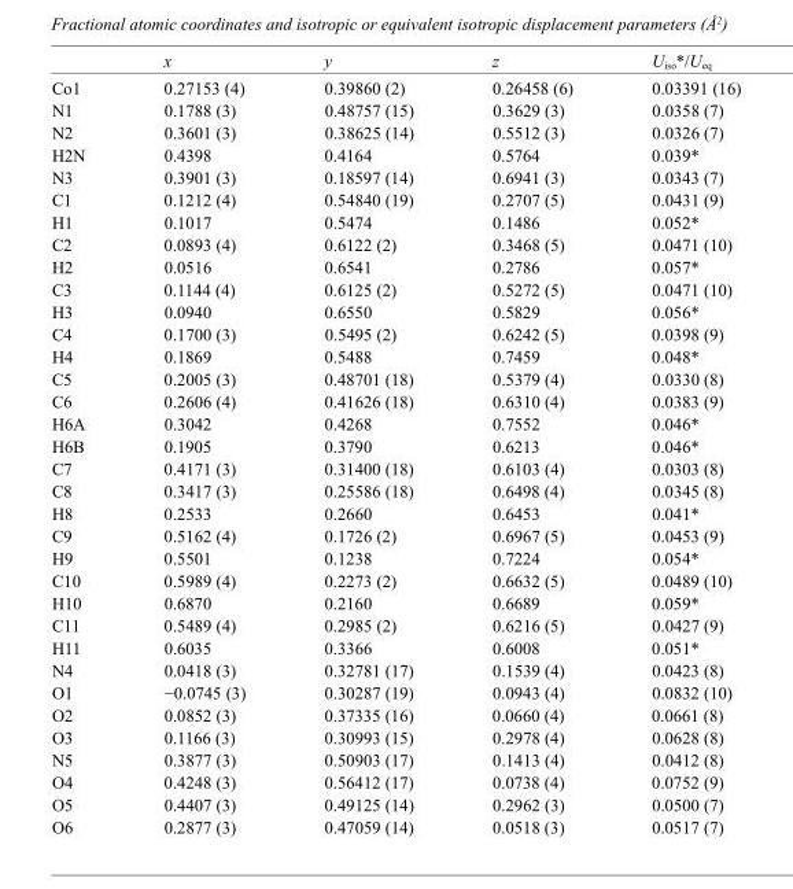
<table><thead><tr><td></td><td>x</td><td>y</td><td>z</td><td>U<sub>iso</sub>*/U<sub>eq</sub></td></tr></thead><tbody><tr><td>Co1</td><td>0.27153 (4)</td><td>0.39860 (2)</td><td>0.26458 (6)</td><td>0.03391 (16)</td></tr><tr><td>N1</td><td>0.1788 (3)</td><td>0.48757 (15)</td><td>0.3629 (3)</td><td>0.0358 (7)</td></tr><tr><td>N2</td><td>0.3601 (3)</td><td>0.38625 (14)</td><td>0.5512 (3)</td><td>0.0326 (7)</td></tr><tr><td>H2N</td><td>0.4398</td><td>0.4164</td><td>0.5764</td><td>0.039*</td></tr><tr><td>N3</td><td>0.3901 (3)</td><td>0.18597 (14)</td><td>0.6941 (3)</td><td>0.0343 (7)</td></tr><tr><td>C1</td><td>0.1212 (4)</td><td>0.54840 (19)</td><td>0.2707 (5)</td><td>0.0431 (9)</td></tr><tr><td>H1</td><td>0.1017</td><td>0.5474</td><td>0.1486</td><td>0.052*</td></tr><tr><td>C2</td><td>0.0893 (4)</td><td>0.6122 (2)</td><td>0.3468 (5)</td><td>0.0471 (10)</td></tr><tr><td>H2</td><td>0.0516</td><td>0.6541</td><td>0.2786</td><td>0.057*</td></tr><tr><td>C3</td><td>0.1144 (4)</td><td>0.6125 (2)</td><td>0.5272 (5)</td><td>0.0471 (10)</td></tr><tr><td>H3</td><td>0.0940</td><td>0.6550</td><td>0.5829</td><td>0.056*</td></tr><tr><td>C4</td><td>0.1700 (3)</td><td>0.5495 (2)</td><td>0.6242 (5)</td><td>0.0398 (9)</td></tr><tr><td>H4</td><td>0.1869</td><td>0.5488</td><td>0.7459</td><td>0.048*</td></tr><tr><td>C5</td><td>0.2005 (3)</td><td>0.48701 (18)</td><td>0.5379 (4)</td><td>0.0330 (8)</td></tr><tr><td>C6</td><td>0.2606 (4)</td><td>0.41626 (18)</td><td>0.6310 (4)</td><td>0.0383 (9)</td></tr><tr><td>H6A</td><td>0.3042</td><td>0.4268</td><td>0.7552</td><td>0.046*</td></tr><tr><td>H6B</td><td>0.1905</td><td>0.3790</td><td>0.6213</td><td>0.046*</td></tr><tr><td>C7</td><td>0.4171 (3)</td><td>0.31400 (18)</td><td>0.6103 (4)</td><td>0.0303 (8)</td></tr><tr><td>C8</td><td>0.3417 (3)</td><td>0.25586 (18)</td><td>0.6498 (4)</td><td>0.0345 (8)</td></tr><tr><td>H8</td><td>0.2533</td><td>0.2660</td><td>0.6453</td><td>0.041*</td></tr><tr><td>C9</td><td>0.5162 (4)</td><td>0.1726 (2)</td><td>0.6967 (5)</td><td>0.0453 (9)</td></tr><tr><td>H9</td><td>0.5501</td><td>0.1238</td><td>0.7224</td><td>0.054*</td></tr><tr><td>C10</td><td>0.5989 (4)</td><td>0.2273 (2)</td><td>0.6632 (5)</td><td>0.0489 (10)</td></tr><tr><td>H10</td><td>0.6870</td><td>0.2160</td><td>0.6689</td><td>0.059*</td></tr><tr><td>C11</td><td>0.5489 (4)</td><td>0.2985 (2)</td><td>0.6216 (5)</td><td>0.0427 (9)</td></tr><tr><td>H11</td><td>0.6035</td><td>0.3366</td><td>0.6008</td><td>0.051*</td></tr><tr><td>N4</td><td>0.0418 (3)</td><td>0.32781 (17)</td><td>0.1539 (4)</td><td>0.0423 (8)</td></tr><tr><td>O1</td><td>−0.0745 (3)</td><td>0.30287 (19)</td><td>0.0943 (4)</td><td>0.0832 (10)</td></tr><tr><td>O2</td><td>0.0852 (3)</td><td>0.37335 (16)</td><td>0.0660 (4)</td><td>0.0661 (8)</td></tr><tr><td>O3</td><td>0.1166 (3)</td><td>0.30993 (15)</td><td>0.2978 (4)</td><td>0.0628 (8)</td></tr><tr><td>N5</td><td>0.3877 (3)</td><td>0.50903 (17)</td><td>0.1413 (4)</td><td>0.0412 (8)</td></tr><tr><td>O4</td><td>0.4248 (3)</td><td>0.56412 (17)</td><td>0.0738 (4)</td><td>0.0752 (9)</td></tr><tr><td>O5</td><td>0.4407 (3)</td><td>0.49125 (14)</td><td>0.2962 (3)</td><td>0.0500 (7)</td></tr><tr><td>O6</td><td>0.2877 (3)</td><td>0.47059 (14)</td><td>0.0518 (3)</td><td>0.0517 (7)</td></tr></tbody></table>